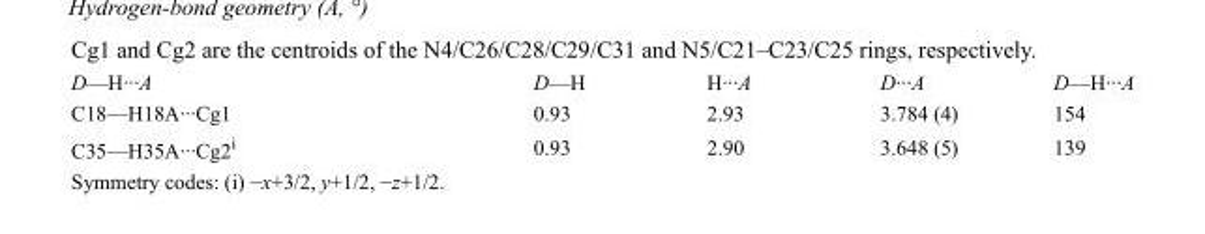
<table><tbody><tr><td>D—H···A</td><td>D—H</td><td>H···A</td><td>D···A</td><td>D—H···A</td></tr><tr><td>C18—H18A···Cg1</td><td>0.93</td><td>2.93</td><td>3.784 (4)</td><td>154</td></tr><tr><td>C35—H35A···Cg2<sup>i</sup></td><td>0.93</td><td>2.90</td><td>3.648 (5)</td><td>139</td></tr></tbody></table>